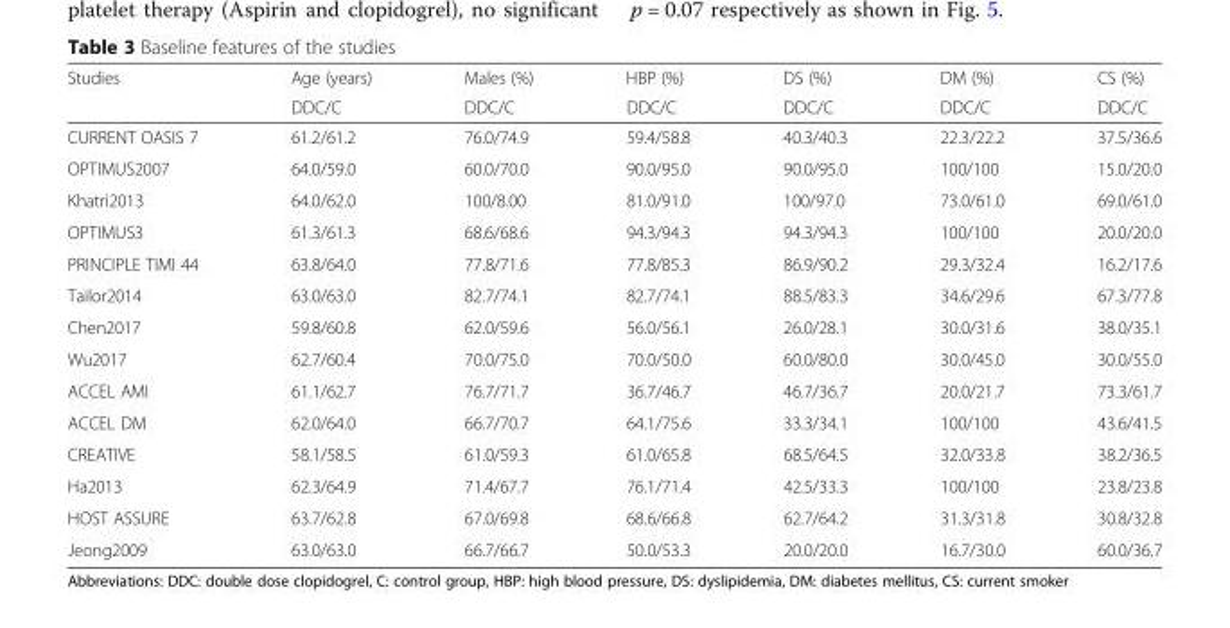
<table><thead><tr><td rowspan="2">Studies</td><td rowspan="2">Age (years) DDC/C</td><td rowspan="2">Males (%) DDC/C</td><td rowspan="2">HBP (%) DDC/C</td><td rowspan="2">DS (%) DDC/C</td><td rowspan="2">DM (%) DDC/C</td><td rowspan="2">CS (%) DDC/C</td></tr><tr></tr></thead><tbody><tr><td>CURRENT OASIS 7</td><td>61.2/61.2</td><td>76.0/74.9</td><td>59.4/58.8</td><td>40.3/40.3</td><td>22.3/22.2</td><td>37.5/36.6</td></tr><tr><td>OPTIMUS2007</td><td>64.0/59.0</td><td>60.0/70.0</td><td>90.0/95.0</td><td>90.0/95.0</td><td>100/100</td><td>15.0/20.0</td></tr><tr><td>Khatri2013</td><td>64.0/62.0</td><td>100/8.00</td><td>81.0/91.0</td><td>100/97.0</td><td>73.0/61.0</td><td>69.0/61.0</td></tr><tr><td>OPTIMUS3</td><td>61.3/61.3</td><td>68.6/68.6</td><td>94.3/94.3</td><td>94.3/94.3</td><td>100/100</td><td>20.0/20.0</td></tr><tr><td>PRINCIPLE TIMI 44</td><td>63.8/64.0</td><td>77.8/71.6</td><td>77.8/85.3</td><td>86.9/90.2</td><td>29.3/32.4</td><td>16.2/17.6</td></tr><tr><td>Tailor2014</td><td>63.0/63.0</td><td>82.7/74.1</td><td>82.7/74.1</td><td>88.5/83.3</td><td>34.6/29.6</td><td>67.3/77.8</td></tr><tr><td>Chen2017</td><td>59.8/60.8</td><td>62.0/59.6</td><td>56.0/56.1</td><td>26.0/28.1</td><td>30.0/31.6</td><td>38.0/35.1</td></tr><tr><td>Wu2017</td><td>62.7/60.4</td><td>70.0/75.0</td><td>70.0/50.0</td><td>60.0/80.0</td><td>30.0/45.0</td><td>30.0/55.0</td></tr><tr><td>ACCEL AMI</td><td>61.1/62.7</td><td>76.7/71.7</td><td>36.7/46.7</td><td>46.7/36.7</td><td>20.0/21.7</td><td>73.3/61.7</td></tr><tr><td>ACCEL DM</td><td>62.0/64.0</td><td>66.7/70.7</td><td>64.1/75.6</td><td>33.3/34.1</td><td>100/100</td><td>43.6/41.5</td></tr><tr><td>CREATIVE</td><td>58.1/58.5</td><td>61.0/59.3</td><td>61.0/65.8</td><td>68.5/64.5</td><td>32.0/33.8</td><td>38.2/36.5</td></tr><tr><td>Ha2013</td><td>62.3/64.9</td><td>71.4/67.7</td><td>76.1/71.4</td><td>42.5/33.3</td><td>100/100</td><td>23.8/23.8</td></tr><tr><td>HOST ASSURE</td><td>63.7/62.8</td><td>67.0/69.8</td><td>68.6/66.8</td><td>62.7/64.2</td><td>31.3/31.8</td><td>30.8/32.8</td></tr><tr><td>Jeong2009</td><td>63.0/63.0</td><td>66.7/66.7</td><td>50.0/53.3</td><td>20.0/20.0</td><td>16.7/30.0</td><td>60.0/36.7</td></tr></tbody></table>